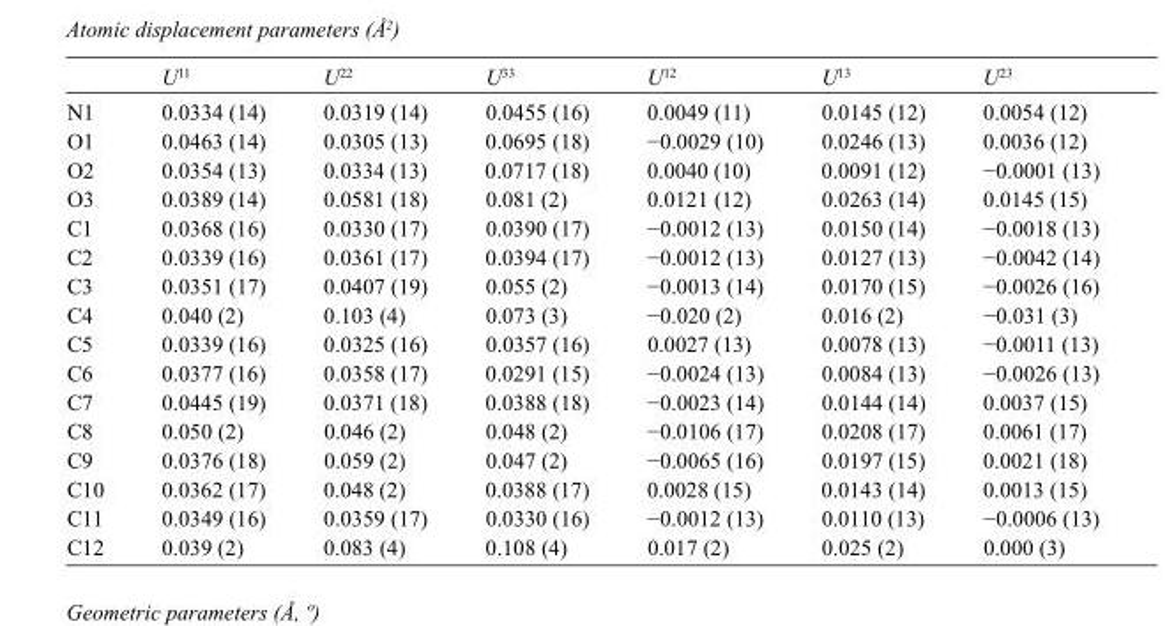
<table><thead><tr><td></td><td>U<sup>11</sup></td><td>U<sup>22</sup></td><td>U<sup>33</sup></td><td>U<sup>12</sup></td><td>U<sup>13</sup></td><td>U<sup>23</sup></td></tr></thead><tbody><tr><td>N1</td><td>0.0334 (14)</td><td>0.0319 (14)</td><td>0.0455 (16)</td><td>0.0049 (11)</td><td>0.0145 (12)</td><td>0.0054 (12)</td></tr><tr><td>O1</td><td>0.0463 (14)</td><td>0.0305 (13)</td><td>0.0695 (18)</td><td>−0.0029 (10)</td><td>0.0246 (13)</td><td>0.0036 (12)</td></tr><tr><td>O2</td><td>0.0354 (13)</td><td>0.0334 (13)</td><td>0.0717 (18)</td><td>0.0040 (10)</td><td>0.0091 (12)</td><td>−0.0001 (13)</td></tr><tr><td>O3</td><td>0.0389 (14)</td><td>0.0581 (18)</td><td>0.081 (2)</td><td>0.0121 (12)</td><td>0.0263 (14)</td><td>0.0145 (15)</td></tr><tr><td>C1</td><td>0.0368 (16)</td><td>0.0330 (17)</td><td>0.0390 (17)</td><td>−0.0012 (13)</td><td>0.0150 (14)</td><td>−0.0018 (13)</td></tr><tr><td>C2</td><td>0.0339 (16)</td><td>0.0361 (17)</td><td>0.0394 (17)</td><td>−0.0012 (13)</td><td>0.0127 (13)</td><td>−0.0042 (14)</td></tr><tr><td>C3</td><td>0.0351 (17)</td><td>0.0407 (19)</td><td>0.055 (2)</td><td>−0.0013 (14)</td><td>0.0170 (15)</td><td>−0.0026 (16)</td></tr><tr><td>C4</td><td>0.040 (2)</td><td>0.103 (4)</td><td>0.073 (3)</td><td>−0.020 (2)</td><td>0.016 (2)</td><td>−0.031 (3)</td></tr><tr><td>C5</td><td>0.0339 (16)</td><td>0.0325 (16)</td><td>0.0357 (16)</td><td>0.0027 (13)</td><td>0.0078 (13)</td><td>−0.0011 (13)</td></tr><tr><td>C6</td><td>0.0377 (16)</td><td>0.0358 (17)</td><td>0.0291 (15)</td><td>−0.0024 (13)</td><td>0.0084 (13)</td><td>−0.0026 (13)</td></tr><tr><td>C7</td><td>0.0445 (19)</td><td>0.0371 (18)</td><td>0.0388 (18)</td><td>−0.0023 (14)</td><td>0.0144 (14)</td><td>0.0037 (15)</td></tr><tr><td>C8</td><td>0.050 (2)</td><td>0.046 (2)</td><td>0.048 (2)</td><td>−0.0106 (17)</td><td>0.0208 (17)</td><td>0.0061 (17)</td></tr><tr><td>C9</td><td>0.0376 (18)</td><td>0.059 (2)</td><td>0.047 (2)</td><td>−0.0065 (16)</td><td>0.0197 (15)</td><td>0.0021 (18)</td></tr><tr><td>C10</td><td>0.0362 (17)</td><td>0.048 (2)</td><td>0.0388 (17)</td><td>0.0028 (15)</td><td>0.0143 (14)</td><td>0.0013 (15)</td></tr><tr><td>C11</td><td>0.0349 (16)</td><td>0.0359 (17)</td><td>0.0330 (16)</td><td>−0.0012 (13)</td><td>0.0110 (13)</td><td>−0.0006 (13)</td></tr><tr><td>C12</td><td>0.039 (2)</td><td>0.083 (4)</td><td>0.108 (4)</td><td>0.017 (2)</td><td>0.025 (2)</td><td>0.000 (3)</td></tr></tbody></table>